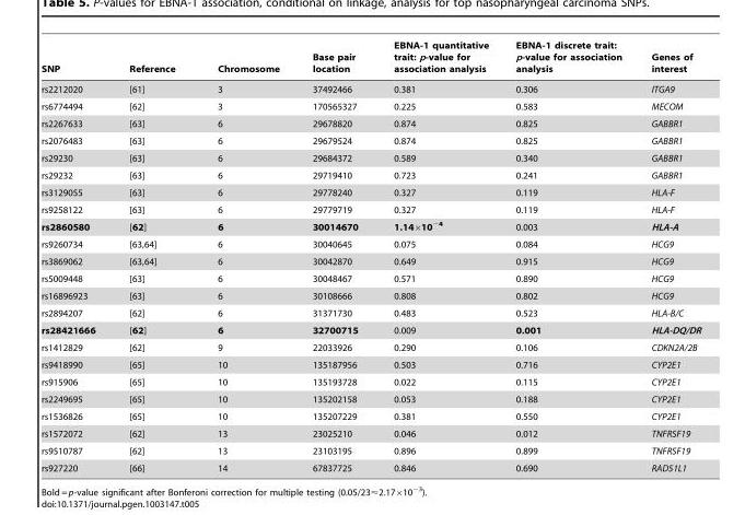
<table><thead><tr><td>SNP</td><td>Reference</td><td>Chromosome</td><td>Base pair location</td><td>EBNA-1 quantitative trait: p-value for association analysis</td><td>EBNA-1 discrete trait: p-value for association analysis</td><td>Genes of interest</td></tr></thead><tbody><tr><td>rs2212020</td><td>[61]</td><td>3</td><td>37492466</td><td>0.381</td><td>0.306</td><td>ITGA9</td></tr><tr><td>rs6774494</td><td>[62]</td><td>3</td><td>170565327</td><td>0.225</td><td>0.583</td><td>MECOM</td></tr><tr><td>rs2267633</td><td>[63]</td><td>6</td><td>29678820</td><td>0.874</td><td>0.825</td><td>GABBR1</td></tr><tr><td>rs2076483</td><td>[63]</td><td>6</td><td>29679524</td><td>0.874</td><td>0.825</td><td>GABBR1</td></tr><tr><td>rs29230</td><td>[63]</td><td>6</td><td>29684372</td><td>0.589</td><td>0.340</td><td>GABBR1</td></tr><tr><td>rs29232</td><td>[63]</td><td>6</td><td>29719410</td><td>0.723</td><td>0.241</td><td>GABBR1</td></tr><tr><td>rs3129055</td><td>[63]</td><td>6</td><td>29778240</td><td>0.327</td><td>0.119</td><td>HLA-F</td></tr><tr><td>rs9258122</td><td>[63]</td><td>6</td><td>29779719</td><td>0.327</td><td>0.119</td><td>HLA-F</td></tr><tr><td>rs2860580</td><td>[62]</td><td>6</td><td>30014670</td><td>1.14×10<sup>−4</sup></td><td>0.003</td><td>HLA-A</td></tr><tr><td>rs9260734</td><td>[63,64]</td><td>6</td><td>30040645</td><td>0.075</td><td>0.084</td><td>HCG9</td></tr><tr><td>rs3869062</td><td>[63,64]</td><td>6</td><td>30042870</td><td>0.649</td><td>0.915</td><td>HCG9</td></tr><tr><td>rs5009448</td><td>[63]</td><td>6</td><td>30048467</td><td>0.571</td><td>0.890</td><td>HCG9</td></tr><tr><td>rs16896923</td><td>[63]</td><td>6</td><td>30108666</td><td>0.808</td><td>0.802</td><td>HCG9</td></tr><tr><td>rs2894207</td><td>[62]</td><td>6</td><td>31371730</td><td>0.483</td><td>0.523</td><td>HLA-B/C</td></tr><tr><td>rs28421666</td><td>[62]</td><td>6</td><td>32700715</td><td>0.009</td><td>0.001</td><td>HLA-DQ/DR</td></tr><tr><td>rs1412829</td><td>[62]</td><td>9</td><td>22033926</td><td>0.290</td><td>0.106</td><td>CDKN2A/2B</td></tr><tr><td>rs9418990</td><td>[65]</td><td>10</td><td>135187956</td><td>0.503</td><td>0.716</td><td>CYP2E1</td></tr><tr><td>rs915906</td><td>[65]</td><td>10</td><td>135193728</td><td>0.022</td><td>0.115</td><td>CYP2E1</td></tr><tr><td>rs2249695</td><td>[65]</td><td>10</td><td>135202158</td><td>0.053</td><td>0.188</td><td>CYP2E1</td></tr><tr><td>rs1536826</td><td>[65]</td><td>10</td><td>135207229</td><td>0.381</td><td>0.550</td><td>CYP2E1</td></tr><tr><td>rs1572072</td><td>[62]</td><td>13</td><td>23025210</td><td>0.046</td><td>0.012</td><td>TNFRSF19</td></tr><tr><td>rs9510787</td><td>[62]</td><td>13</td><td>23103195</td><td>0.896</td><td>0.899</td><td>TNFRSF19</td></tr><tr><td>rs927220</td><td>[66]</td><td>14</td><td>67837725</td><td>0.846</td><td>0.690</td><td>RAD51L1</td></tr></tbody></table>